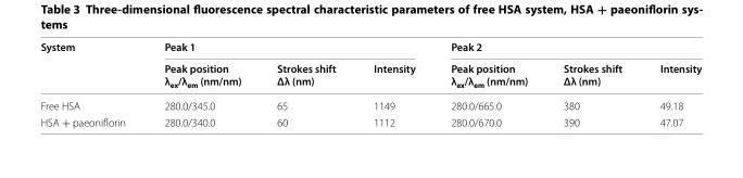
<table><thead><tr><td rowspan="2">System</td><td colspan="3">Peak 1</td><td colspan="3">Peak 2</td></tr><tr><td>Peak position λ<sub>ex</sub>/λ<sub>em</sub> (nm/nm)</td><td>Strokes shift Δλ (nm)</td><td>Intensity</td><td>Peak position λ<sub>ex</sub>/λ<sub>em</sub> (nm/nm)</td><td>Strokes shift Δλ (nm)</td><td>Intensity</td></tr></thead><tbody><tr><td>Free HSA</td><td>280.0/345.0</td><td>65</td><td>1149</td><td>280.0/665.0</td><td>380</td><td>49.18</td></tr><tr><td>HSA + paeoniflorin</td><td>280.0/340.0</td><td>60</td><td>1112</td><td>280.0/670.0</td><td>390</td><td>47.07</td></tr></tbody></table>